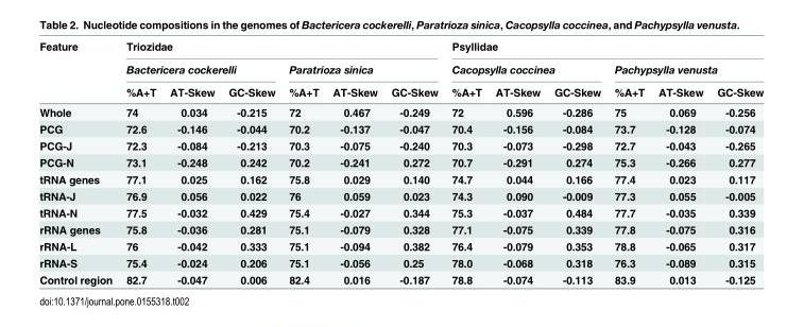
<table><thead><tr><td rowspan="3">Feature</td><td colspan="6">Triozidae</td><td colspan="6">Psyllidae</td></tr><tr><td colspan="3">Bactericera cockerelli</td><td colspan="3">Paratrioza sinica</td><td colspan="3">Cacopsylla coccinea</td><td colspan="3">Pachypsylla venusta</td></tr><tr><td>%A+T</td><td>AT-Skew</td><td>GC-Skew</td><td>%A+T</td><td>AT-Skew</td><td>GC-Skew</td><td>%A+T</td><td>AT-Skew</td><td>GC-Skew</td><td>%A+T</td><td>AT-Skew</td><td>GC-Skew</td></tr></thead><tbody><tr><td>Whole</td><td>74</td><td>0.034</td><td>-0.215</td><td>72</td><td>0.467</td><td>-0.249</td><td>72</td><td>0.596</td><td>-0.286</td><td>75</td><td>0.069</td><td>-0.256</td></tr><tr><td>PCG</td><td>72.6</td><td>-0.146</td><td>-0.044</td><td>70.2</td><td>-0.137</td><td>-0.047</td><td>70.4</td><td>-0.156</td><td>-0.084</td><td>73.7</td><td>-0.128</td><td>-0.074</td></tr><tr><td>PCG-J</td><td>72.3</td><td>-0.084</td><td>-0.213</td><td>70.3</td><td>-0.075</td><td>-0.240</td><td>70.3</td><td>-0.073</td><td>-0.298</td><td>72.7</td><td>-0.043</td><td>-0.265</td></tr><tr><td>PCG-N</td><td>73.1</td><td>-0.248</td><td>0.242</td><td>70.2</td><td>-0.241</td><td>0.272</td><td>70.7</td><td>-0.291</td><td>0.274</td><td>75.3</td><td>-0.266</td><td>0.277</td></tr><tr><td>tRNA genes</td><td>77.1</td><td>0.025</td><td>0.162</td><td>75.8</td><td>0.029</td><td>0.140</td><td>74.7</td><td>0.044</td><td>0.166</td><td>77.4</td><td>0.023</td><td>0.117</td></tr><tr><td>tRNA-J</td><td>76.9</td><td>0.056</td><td>0.022</td><td>76</td><td>0.059</td><td>0.023</td><td>74.3</td><td>0.090</td><td>-0.009</td><td>77.3</td><td>0.055</td><td>-0.005</td></tr><tr><td>tRNA-N</td><td>77.5</td><td>-0.032</td><td>0.429</td><td>75.4</td><td>-0.027</td><td>0.344</td><td>75.3</td><td>-0.037</td><td>0.484</td><td>77.7</td><td>-0.035</td><td>0.339</td></tr><tr><td>rRNA genes</td><td>75.8</td><td>-0.036</td><td>0.281</td><td>75.1</td><td>-0.079</td><td>0.328</td><td>77.1</td><td>-0.075</td><td>0.339</td><td>77.8</td><td>-0.075</td><td>0.316</td></tr><tr><td>rRNA-L</td><td>76</td><td>-0.042</td><td>0.333</td><td>75.1</td><td>-0.094</td><td>0.382</td><td>76.4</td><td>-0.079</td><td>0.353</td><td>78.8</td><td>-0.065</td><td>0.317</td></tr><tr><td>rRNA-S</td><td>75.4</td><td>-0.024</td><td>0.206</td><td>75.1</td><td>-0.056</td><td>0.25</td><td>78.0</td><td>-0.068</td><td>0.318</td><td>76.3</td><td>-0.089</td><td>0.315</td></tr><tr><td>Control region</td><td>82.7</td><td>-0.047</td><td>0.006</td><td>82.4</td><td>0.016</td><td>-0.187</td><td>78.8</td><td>-0.074</td><td>-0.113</td><td>83.9</td><td>0.013</td><td>-0.125</td></tr></tbody></table>